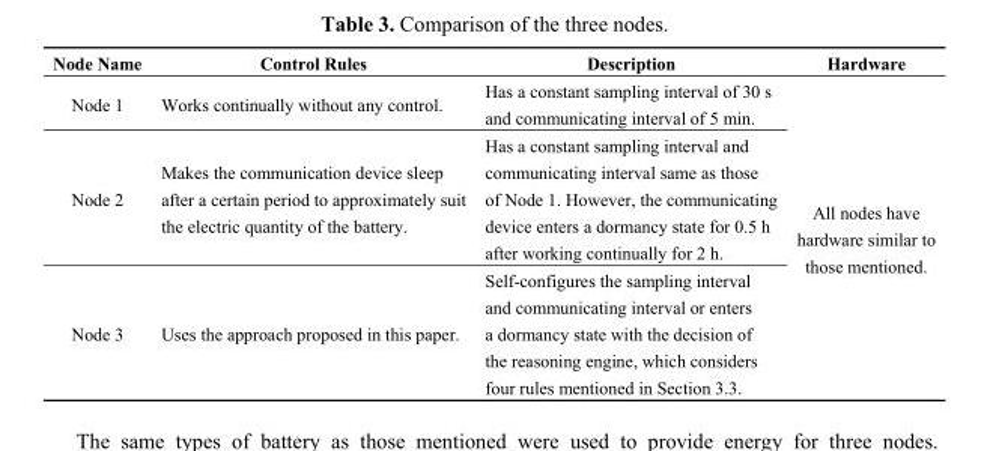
<table><thead><tr><td>Node Name</td><td>Control Rules</td><td>Description</td><td>Hardware</td></tr></thead><tbody><tr><td>Node 1</td><td>Works continually without any control.</td><td>Has a constant sampling interval of 30 s and communicating interval of 5 min.</td><td rowspan="3">All nodes have hardware similar to those mentioned.</td></tr><tr><td>Node 2</td><td>Makes the communication device sleep after a certain period to approximately suit the electric quantity of the battery.</td><td>Has a constant sampling interval and communicating interval same as those of Node 1. However, the communicating device enters a dormancy state for 0.5 h after working continually for 2 h.</td></tr><tr><td>Node 3</td><td>Uses the approach proposed in this paper.</td><td>Self-configures the sampling interval and communicating interval or enters a dormancy state with the decision of the reasoning engine, which considers four rules mentioned in Section 3.3.</td></tr></tbody></table>